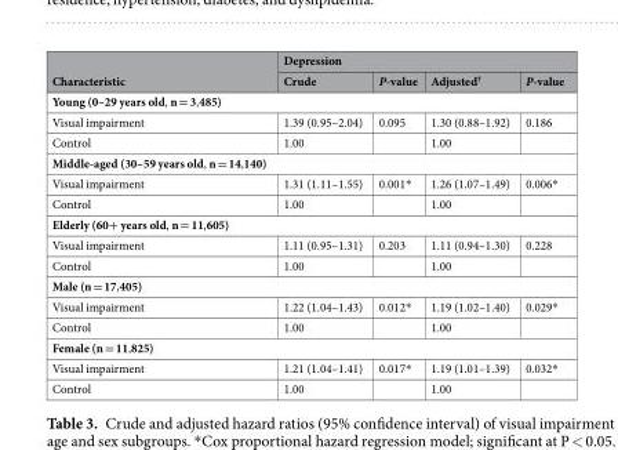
<table><thead><tr><td rowspan="2">Characteristic</td><td colspan="4">Depression</td></tr><tr><td>Crude</td><td>P-value</td><td>Adjusted<sup>†</sup></td><td>P-value</td></tr></thead><tbody><tr><td colspan="5">Young (0–29 years old, n = 3,485)</td></tr><tr><td>Visual impairment</td><td>1.39 (0.95–2.04)</td><td>0.095</td><td>1.30 (0.88–1.92)</td><td>0.186</td></tr><tr><td>Control</td><td>1.00</td><td></td><td>1.00</td><td></td></tr><tr><td colspan="5">Middle-aged (30–59 years old, n = 14,140)</td></tr><tr><td>Visual impairment</td><td>1.31 (1.11–1.55)</td><td>0.001*</td><td>1.26 (1.07–1.49)</td><td>0.006*</td></tr><tr><td>Control</td><td>1.00</td><td></td><td>1.00</td><td></td></tr><tr><td colspan="5">Elderly (60+ years old, n = 11,605)</td></tr><tr><td>Visual impairment</td><td>1.11 (0.95–1.31)</td><td>0.203</td><td>1.11 (0.94–1.30)</td><td>0.228</td></tr><tr><td>Control</td><td>1.00</td><td></td><td>1.00</td><td></td></tr><tr><td colspan="5">Male (n = 17,405)</td></tr><tr><td>Visual impairment</td><td>1.22 (1.04–1.43)</td><td>0.012*</td><td>1.19 (1.02–1.40)</td><td>0.029*</td></tr><tr><td>Control</td><td>1.00</td><td></td><td>1.00</td><td></td></tr><tr><td colspan="5">Female (n = 11,825)</td></tr><tr><td>Visual impairment</td><td>1.21 (1.04–1.41)</td><td>0.017*</td><td>1.19 (1.01–1.39)</td><td>0.032*</td></tr><tr><td>Control</td><td>1.00</td><td></td><td>1.00</td><td></td></tr></tbody></table>